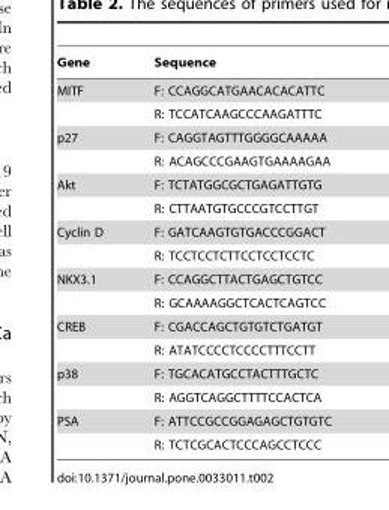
<table><thead><tr><td>Gene</td><td>Sequence</td></tr></thead><tbody><tr><td rowspan="2">MITF</td><td>F: CCAGGCATGAACACACATTC</td></tr><tr><td>R: TCCATCAAGCCCAAGATTTC</td></tr><tr><td rowspan="2">p27</td><td>F: CAGGTAGTTTGGGGCAAAAA</td></tr><tr><td>R: ACAGCCCGAAGTGAAAAGAA</td></tr><tr><td rowspan="2">Akt</td><td>F: TCTATGGCGCTGAGATTGTG</td></tr><tr><td>R: CTTAATGTGCCCGTCCTTGT</td></tr><tr><td rowspan="2">Cyclin D</td><td>F: GATCAAGTGTGACCCGGACT</td></tr><tr><td>R: TCCTCCTCTTCCTCCTCCTC</td></tr><tr><td rowspan="2">NKX3.1</td><td>F: CCAGGCTTACTGAGCTGTCC</td></tr><tr><td>R: GCAAAAGGCTCACTCAGTCC</td></tr><tr><td rowspan="2">CREB</td><td>F: CGACCAGCTGTGTCTGATGT</td></tr><tr><td>R: ATATCCCCTCCCCTTTCCTT</td></tr><tr><td rowspan="2">p38</td><td>F: TGCACATGCCTACTTTGCTC</td></tr><tr><td>R: AGGTCAGGCTTTTCCACTCA</td></tr><tr><td rowspan="2">PSA</td><td>F: ATTCCGCCGGAGAGCTGTGTC</td></tr><tr><td>R: TCTCGCACTCCCAGCCTCCC</td></tr></tbody></table>